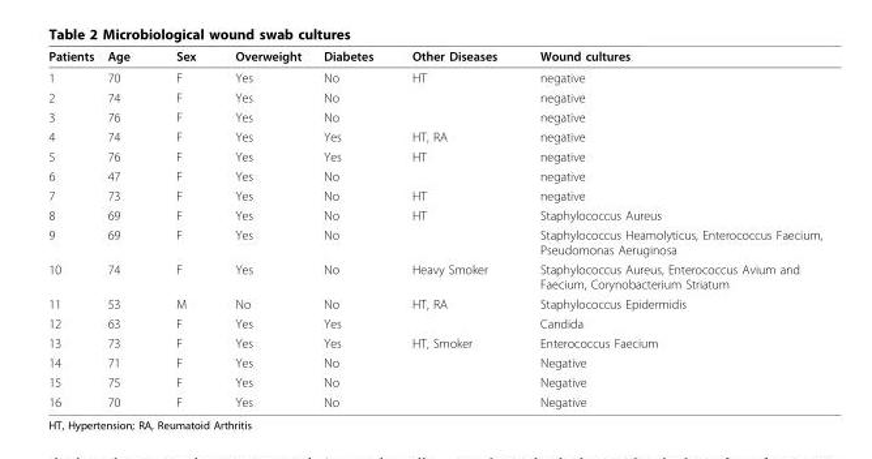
<table><thead><tr><td>Patients</td><td>Age</td><td>Sex</td><td>Overweight</td><td>Diabetes</td><td>Other Diseases</td><td>Wound cultures</td></tr></thead><tbody><tr><td>1</td><td>70</td><td>F</td><td>Yes</td><td>No</td><td>HT</td><td>negative</td></tr><tr><td>2</td><td>74</td><td>F</td><td>Yes</td><td>No</td><td></td><td>negative</td></tr><tr><td>3</td><td>76</td><td>F</td><td>Yes</td><td>No</td><td></td><td>negative</td></tr><tr><td>4</td><td>74</td><td>F</td><td>Yes</td><td>Yes</td><td>HT, RA</td><td>negative</td></tr><tr><td>5</td><td>76</td><td>F</td><td>Yes</td><td>Yes</td><td>HT</td><td>negative</td></tr><tr><td>6</td><td>47</td><td>F</td><td>Yes</td><td>No</td><td></td><td>negative</td></tr><tr><td>7</td><td>73</td><td>F</td><td>Yes</td><td>No</td><td>HT</td><td>negative</td></tr><tr><td>8</td><td>69</td><td>F</td><td>Yes</td><td>No</td><td>HT</td><td>Staphylococcus Aureus</td></tr><tr><td>9</td><td>69</td><td>F</td><td>Yes</td><td>No</td><td></td><td>Staphylococcus Heamolyticus, Enterococcus Faecium, Pseudomonas Aeruginosa</td></tr><tr><td>10</td><td>74</td><td>F</td><td>Yes</td><td>No</td><td>Heavy Smoker</td><td>Staphylococcus Aureus, Enterococcus Avium and Faecium, Corynobacterium Striatum</td></tr><tr><td>11</td><td>53</td><td>M</td><td>No</td><td>No</td><td>HT, RA</td><td>Staphylococcus Epidermidis</td></tr><tr><td>12</td><td>63</td><td>F</td><td>Yes</td><td>Yes</td><td></td><td>Candida</td></tr><tr><td>13</td><td>73</td><td>F</td><td>Yes</td><td>Yes</td><td>HT, Smoker</td><td>Enterococcus Faecium</td></tr><tr><td>14</td><td>71</td><td>F</td><td>Yes</td><td>No</td><td></td><td>Negative</td></tr><tr><td>15</td><td>75</td><td>F</td><td>Yes</td><td>No</td><td></td><td>Negative</td></tr><tr><td>16</td><td>70</td><td>F</td><td>Yes</td><td>No</td><td></td><td>Negative</td></tr></tbody></table>